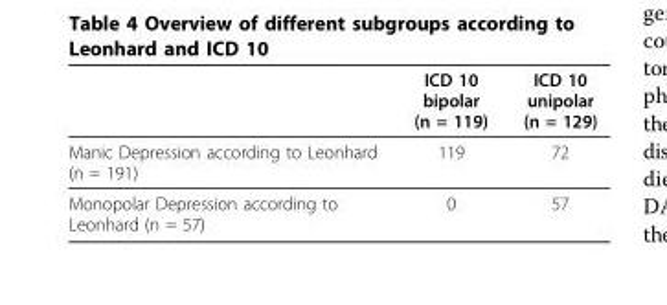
<table><thead><tr><td></td><td>ICD 10 bipolar (n = 119)</td><td>ICD 10 unipolar (n = 129)</td></tr></thead><tbody><tr><td>Manic Depression according to Leonhard (n = 191)</td><td>119</td><td>72</td></tr><tr><td>Monopolar Depression according to Leonhard (n = 57)</td><td>0</td><td>57</td></tr></tbody></table>